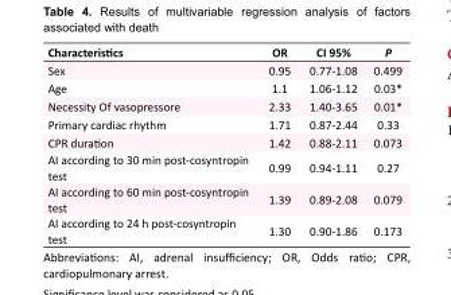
<table><tbody><tr><td>Characteristics</td><td>OR</td><td>CI 95%</td><td>P</td></tr><tr><td>Sex</td><td>0.95</td><td>0.77-1.08</td><td>0.499</td></tr><tr><td>Age</td><td>1.1</td><td>1.06-1.12</td><td>0.03*</td></tr><tr><td>Necessity Of vasopressore</td><td>2.33</td><td>1.40-3.65</td><td>0.01*</td></tr><tr><td>Primary cardiac rhythm</td><td>1.71</td><td>0.87-2.44</td><td>0.33</td></tr><tr><td>CPR duration</td><td>1.42</td><td>0.88-2.11</td><td>0.073</td></tr><tr><td>AI according to 30 min post-cosyntropin test</td><td>0.99</td><td>0.94-1.11</td><td>0.27</td></tr><tr><td>AI according to 60 min post-cosyntropin test</td><td>1.39</td><td>0.89-2.08</td><td>0.079</td></tr><tr><td>AI according to 24 h post-cosyntropin test</td><td>1.30</td><td>0.90-1.86</td><td>0.173</td></tr></tbody></table>